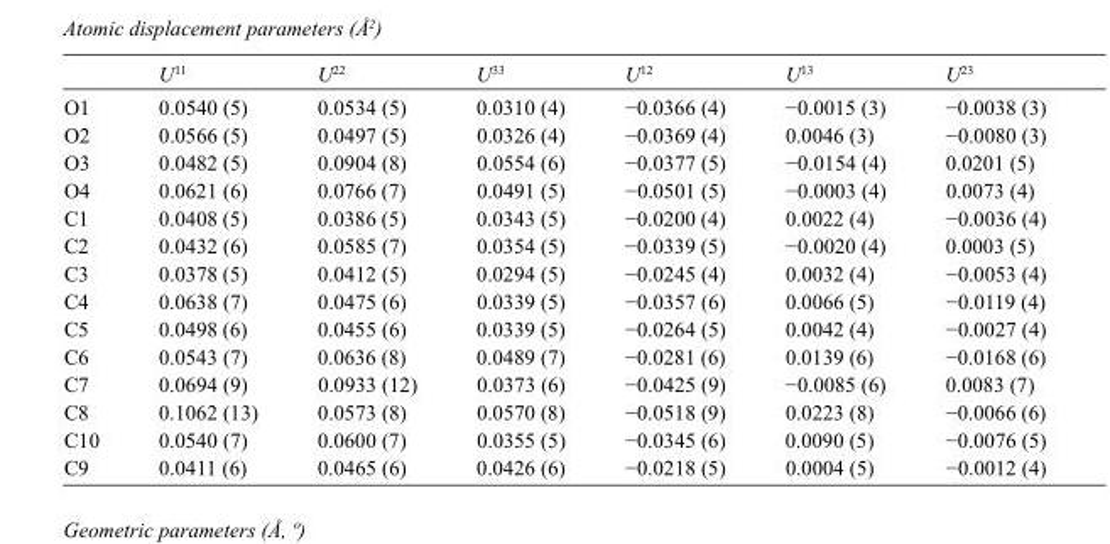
<table><thead><tr><td></td><td>U<sup>11</sup></td><td>U<sup>22</sup></td><td>U<sup>33</sup></td><td>U<sup>12</sup></td><td>U<sup>13</sup></td><td>U<sup>23</sup></td></tr></thead><tbody><tr><td>O1</td><td>0.0540 (5)</td><td>0.0534 (5)</td><td>0.0310 (4)</td><td>−0.0366 (4)</td><td>−0.0015 (3)</td><td>−0.0038 (3)</td></tr><tr><td>O2</td><td>0.0566 (5)</td><td>0.0497 (5)</td><td>0.0326 (4)</td><td>−0.0369 (4)</td><td>0.0046 (3)</td><td>−0.0080 (3)</td></tr><tr><td>O3</td><td>0.0482 (5)</td><td>0.0904 (8)</td><td>0.0554 (6)</td><td>−0.0377 (5)</td><td>−0.0154 (4)</td><td>0.0201 (5)</td></tr><tr><td>O4</td><td>0.0621 (6)</td><td>0.0766 (7)</td><td>0.0491 (5)</td><td>−0.0501 (5)</td><td>−0.0003 (4)</td><td>0.0073 (4)</td></tr><tr><td>C1</td><td>0.0408 (5)</td><td>0.0386 (5)</td><td>0.0343 (5)</td><td>−0.0200 (4)</td><td>0.0022 (4)</td><td>−0.0036 (4)</td></tr><tr><td>C2</td><td>0.0432 (6)</td><td>0.0585 (7)</td><td>0.0354 (5)</td><td>−0.0339 (5)</td><td>−0.0020 (4)</td><td>0.0003 (5)</td></tr><tr><td>C3</td><td>0.0378 (5)</td><td>0.0412 (5)</td><td>0.0294 (5)</td><td>−0.0245 (4)</td><td>0.0032 (4)</td><td>−0.0053 (4)</td></tr><tr><td>C4</td><td>0.0638 (7)</td><td>0.0475 (6)</td><td>0.0339 (5)</td><td>−0.0357 (6)</td><td>0.0066 (5)</td><td>−0.0119 (4)</td></tr><tr><td>C5</td><td>0.0498 (6)</td><td>0.0455 (6)</td><td>0.0339 (5)</td><td>−0.0264 (5)</td><td>0.0042 (4)</td><td>−0.0027 (4)</td></tr><tr><td>C6</td><td>0.0543 (7)</td><td>0.0636 (8)</td><td>0.0489 (7)</td><td>−0.0281 (6)</td><td>0.0139 (6)</td><td>−0.0168 (6)</td></tr><tr><td>C7</td><td>0.0694 (9)</td><td>0.0933 (12)</td><td>0.0373 (6)</td><td>−0.0425 (9)</td><td>−0.0085 (6)</td><td>0.0083 (7)</td></tr><tr><td>C8</td><td>0.1062 (13)</td><td>0.0573 (8)</td><td>0.0570 (8)</td><td>−0.0518 (9)</td><td>0.0223 (8)</td><td>−0.0066 (6)</td></tr><tr><td>C10</td><td>0.0540 (7)</td><td>0.0600 (7)</td><td>0.0355 (5)</td><td>−0.0345 (6)</td><td>0.0090 (5)</td><td>−0.0076 (5)</td></tr><tr><td>C9</td><td>0.0411 (6)</td><td>0.0465 (6)</td><td>0.0426 (6)</td><td>−0.0218 (5)</td><td>0.0004 (5)</td><td>−0.0012 (4)</td></tr></tbody></table>